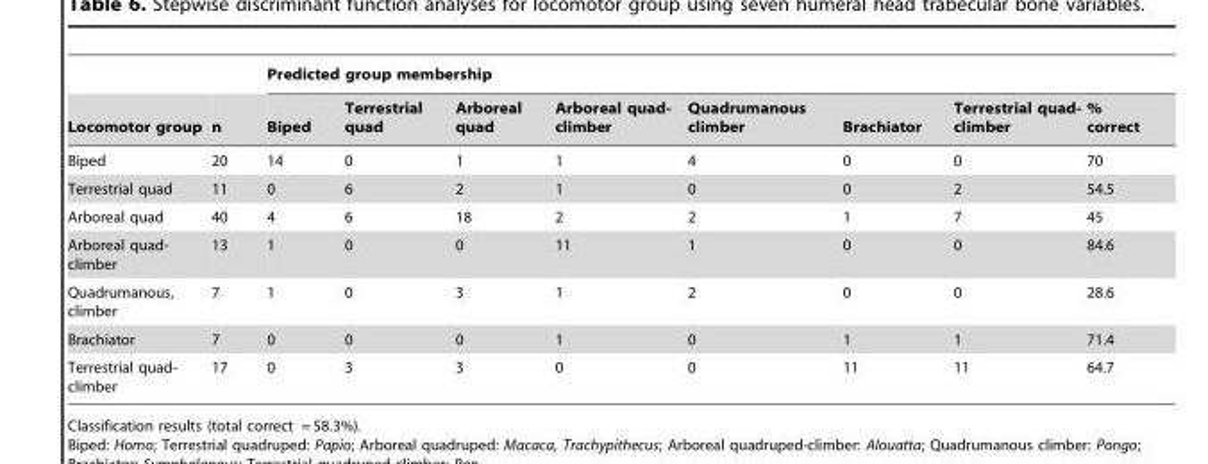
<table><thead><tr><td rowspan="2">Locomotor group</td><td rowspan="2">n</td><td colspan="8">Predicted group membership</td></tr><tr><td>Biped</td><td>Terrestrial quad</td><td>Arboreal quad</td><td>Arboreal quad- climber</td><td>Quadrumanous climber</td><td>Brachiator</td><td>Terrestrial quad- climber</td><td>% correct</td></tr></thead><tbody><tr><td>Biped</td><td>20</td><td>14</td><td>0</td><td>1</td><td>1</td><td>4</td><td>0</td><td>0</td><td>70</td></tr><tr><td>Terrestrial quad</td><td>11</td><td>0</td><td>6</td><td>2</td><td>1</td><td>0</td><td>0</td><td>2</td><td>54.5</td></tr><tr><td>Arboreal quad</td><td>40</td><td>4</td><td>6</td><td>18</td><td>2</td><td>2</td><td>1</td><td>7</td><td>45</td></tr><tr><td>Arboreal quad- climber</td><td>13</td><td>1</td><td>0</td><td>0</td><td>11</td><td>1</td><td>0</td><td>0</td><td>84.6</td></tr><tr><td>Quadrumanous, climber</td><td>7</td><td>1</td><td>0</td><td>3</td><td>1</td><td>2</td><td>0</td><td>0</td><td>28.6</td></tr><tr><td>Brachiator</td><td>7</td><td>0</td><td>0</td><td>0</td><td>1</td><td>0</td><td>1</td><td>1</td><td>71.4</td></tr><tr><td>Terrestrial quad- climber</td><td>17</td><td>0</td><td>3</td><td>3</td><td>0</td><td>0</td><td>11</td><td>11</td><td>64.7</td></tr></tbody></table>